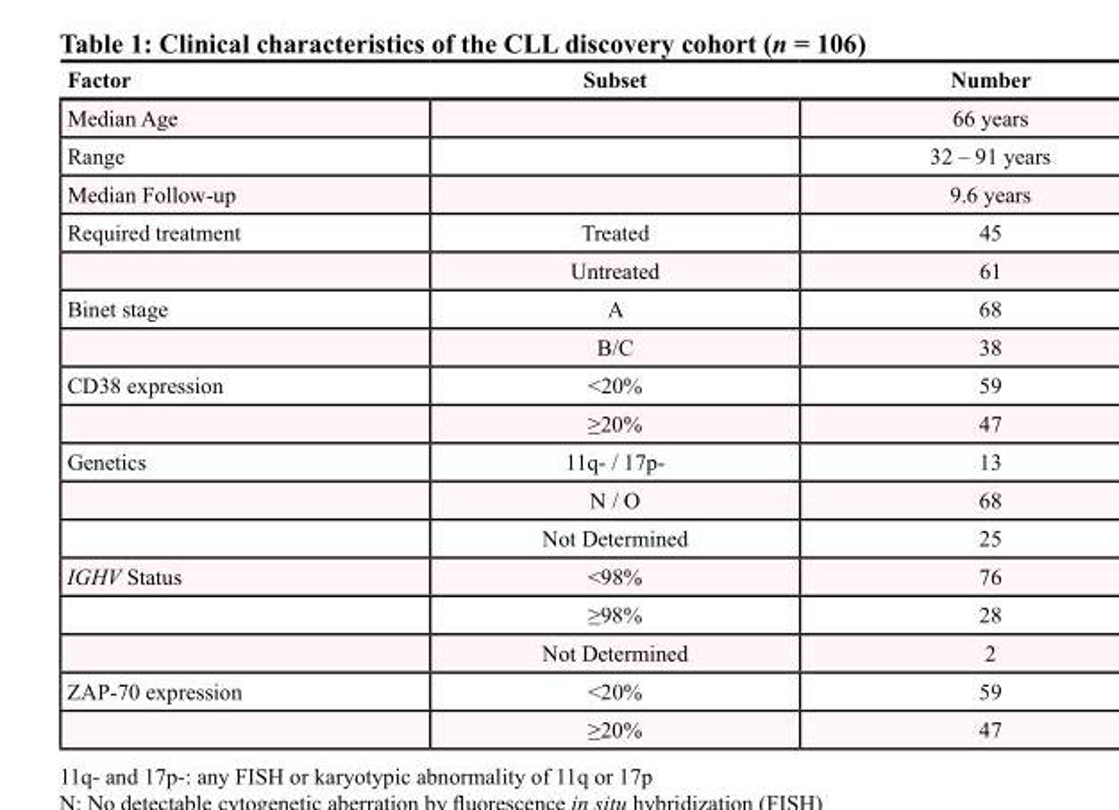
<table><thead><tr><td>Factor</td><td>Subset</td><td>Number</td></tr></thead><tbody><tr><td>Median Age</td><td></td><td>66 years</td></tr><tr><td>Range</td><td></td><td>32 – 91 years</td></tr><tr><td>Median Follow-up</td><td></td><td>9.6 years</td></tr><tr><td rowspan="2">Required treatment</td><td>Treated</td><td>45</td></tr><tr><td>Untreated</td><td>61</td></tr><tr><td rowspan="2">Binet stage</td><td>A</td><td>68</td></tr><tr><td>B/C</td><td>38</td></tr><tr><td rowspan="2">CD38 expression</td><td>&lt;20%</td><td>59</td></tr><tr><td>≥20%</td><td>47</td></tr><tr><td rowspan="3">Genetics</td><td>11q- / 17p-</td><td>13</td></tr><tr><td>N / O</td><td>68</td></tr><tr><td>Not Determined</td><td>25</td></tr><tr><td rowspan="3">IGHV Status</td><td>&lt;98%</td><td>76</td></tr><tr><td>≥98%</td><td>28</td></tr><tr><td>Not Determined</td><td>2</td></tr><tr><td rowspan="2">ZAP-70 expression</td><td>&lt;20%</td><td>59</td></tr><tr><td>≥20%</td><td>47</td></tr></tbody></table>